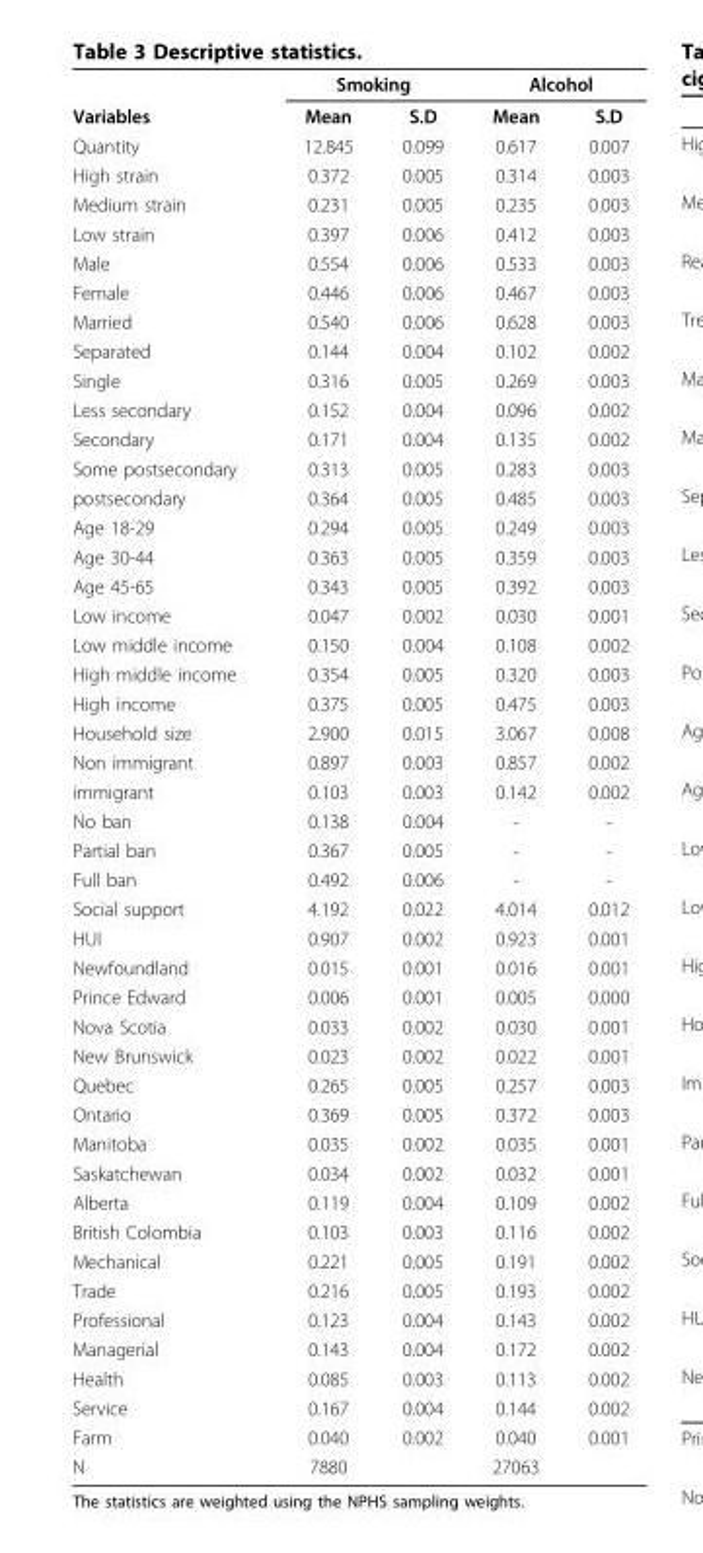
<table><thead><tr><td rowspan="2">Variables</td><td colspan="2">Smoking</td><td colspan="2">Alcohol</td></tr><tr><td>Mean</td><td>S.D</td><td>Mean</td><td>S.D</td></tr></thead><tbody><tr><td>Quantity</td><td>12.845</td><td>0.099</td><td>0.617</td><td>0.007</td></tr><tr><td>High strain</td><td>0.372</td><td>0.005</td><td>0.314</td><td>0.003</td></tr><tr><td>Medium strain</td><td>0.231</td><td>0.005</td><td>0.235</td><td>0.003</td></tr><tr><td>Low strain</td><td>0.397</td><td>0.006</td><td>0.412</td><td>0.003</td></tr><tr><td>Male</td><td>0.554</td><td>0.006</td><td>0.533</td><td>0.003</td></tr><tr><td>Female</td><td>0.446</td><td>0.006</td><td>0.467</td><td>0.003</td></tr><tr><td>Married</td><td>0.540</td><td>0.006</td><td>0.628</td><td>0.003</td></tr><tr><td>Separated</td><td>0.144</td><td>0.004</td><td>0.102</td><td>0.002</td></tr><tr><td>Single</td><td>0.316</td><td>0.005</td><td>0.269</td><td>0.003</td></tr><tr><td>Less secondary</td><td>0.152</td><td>0.004</td><td>0.096</td><td>0.002</td></tr><tr><td>Secondary</td><td>0.171</td><td>0.004</td><td>0.135</td><td>0.002</td></tr><tr><td>Some postsecondary</td><td>0.313</td><td>0.005</td><td>0.283</td><td>0.003</td></tr><tr><td>postsecondary</td><td>0.364</td><td>0.005</td><td>0.485</td><td>0.003</td></tr><tr><td>Age 18-29</td><td>0.294</td><td>0.005</td><td>0.249</td><td>0.003</td></tr><tr><td>Age 30-44</td><td>0.363</td><td>0.005</td><td>0.359</td><td>0.003</td></tr><tr><td>Age 45-65</td><td>0.343</td><td>0.005</td><td>0.392</td><td>0.003</td></tr><tr><td>Low income</td><td>0.047</td><td>0.002</td><td>0.030</td><td>0.001</td></tr><tr><td>Low middle income</td><td>0.150</td><td>0.004</td><td>0.108</td><td>0.002</td></tr><tr><td>High middle income</td><td>0.354</td><td>0.005</td><td>0.320</td><td>0.003</td></tr><tr><td>High income</td><td>0.375</td><td>0.005</td><td>0.475</td><td>0.003</td></tr><tr><td>Household size</td><td>2.900</td><td>0.015</td><td>3.067</td><td>0.008</td></tr><tr><td>Non immigrant</td><td>0.897</td><td>0.003</td><td>0.857</td><td>0.002</td></tr><tr><td>immigrant</td><td>0.103</td><td>0.003</td><td>0.142</td><td>0.002</td></tr><tr><td>No ban</td><td>0.138</td><td>0.004</td><td>-</td><td>-</td></tr><tr><td>Partial ban</td><td>0.367</td><td>0.005</td><td>-</td><td>-</td></tr><tr><td>Full ban</td><td>0.492</td><td>0.006</td><td>-</td><td>-</td></tr><tr><td>Social support</td><td>4.192</td><td>0.022</td><td>4.014</td><td>0.012</td></tr><tr><td>HUI</td><td>0.907</td><td>0.002</td><td>0.923</td><td>0.001</td></tr><tr><td>Newfoundland</td><td>0.015</td><td>0.001</td><td>0.016</td><td>0.001</td></tr><tr><td>Prince Edward</td><td>0.006</td><td>0.001</td><td>0.005</td><td>0.000</td></tr><tr><td>Nova Scotia</td><td>0.033</td><td>0.002</td><td>0.030</td><td>0.001</td></tr><tr><td>New Brunswick</td><td>0.023</td><td>0.002</td><td>0.022</td><td>0.001</td></tr><tr><td>Quebec</td><td>0.265</td><td>0.005</td><td>0.257</td><td>0.003</td></tr><tr><td>Ontario</td><td>0.369</td><td>0.005</td><td>0.372</td><td>0.003</td></tr><tr><td>Manitoba</td><td>0.035</td><td>0.002</td><td>0.035</td><td>0.001</td></tr><tr><td>Saskatchewan</td><td>0.034</td><td>0.002</td><td>0.032</td><td>0.001</td></tr><tr><td>Alberta</td><td>0.119</td><td>0.004</td><td>0.109</td><td>0.002</td></tr><tr><td>British Colombia</td><td>0.103</td><td>0.003</td><td>0.116</td><td>0.002</td></tr><tr><td>Mechanical</td><td>0.221</td><td>0.005</td><td>0.191</td><td>0.002</td></tr><tr><td>Trade</td><td>0.216</td><td>0.005</td><td>0.193</td><td>0.002</td></tr><tr><td>Professional</td><td>0.123</td><td>0.004</td><td>0.143</td><td>0.002</td></tr><tr><td>Managerial</td><td>0.143</td><td>0.004</td><td>0.172</td><td>0.002</td></tr><tr><td>Health</td><td>0.085</td><td>0.003</td><td>0.113</td><td>0.002</td></tr><tr><td>Service</td><td>0.167</td><td>0.004</td><td>0.144</td><td>0.002</td></tr><tr><td>Farm</td><td>0.040</td><td>0.002</td><td>0.040</td><td>0.001</td></tr><tr><td>N</td><td>7880</td><td></td><td>27063</td><td></td></tr></tbody></table>